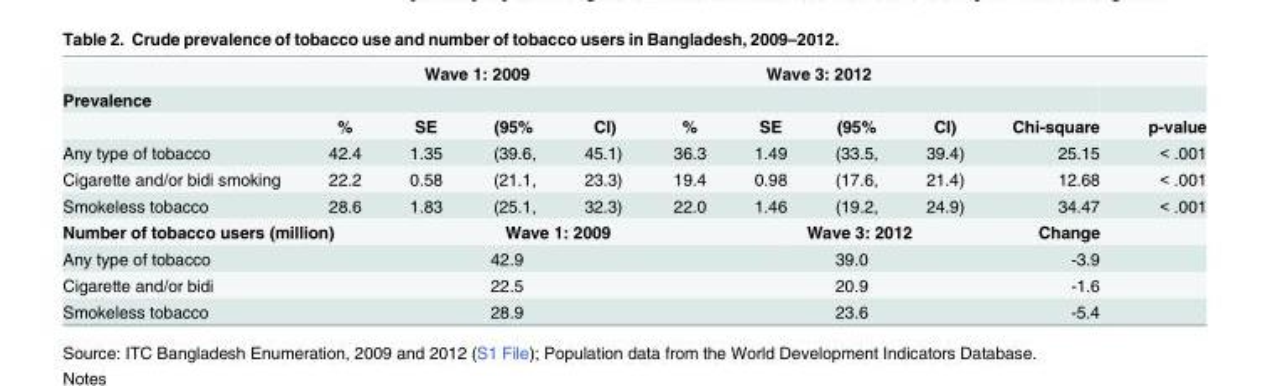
<table><thead><tr><td></td><td colspan="4">Wave 1: 2009</td><td colspan="4">Wave 3: 2012</td><td></td><td rowspan="3">p-value</td></tr><tr><td colspan="10">Prevalence</td></tr><tr><td></td><td>%</td><td>SE</td><td>(95%</td><td>CI)</td><td>%</td><td>SE</td><td>(95%</td><td>CI)</td><td>Chi-square</td></tr></thead><tbody><tr><td>Any type of tobacco</td><td>42.4</td><td>1.35</td><td>(39.6,</td><td>45.1)</td><td>36.3</td><td>1.49</td><td>(33.5,</td><td>39.4)</td><td>25.15</td><td>&lt; .001</td></tr><tr><td>Cigarette and/or bidi smoking</td><td>22.2</td><td>0.58</td><td>(21.1,</td><td>23.3)</td><td>19.4</td><td>0.98</td><td>(17.6,</td><td>21.4)</td><td>12.68</td><td>&lt; .001</td></tr><tr><td>Smokeless tobacco</td><td>28.6</td><td>1.83</td><td>(25.1,</td><td>32.3)</td><td>22.0</td><td>1.46</td><td>(19.2,</td><td>24.9)</td><td>34.47</td><td>&lt; .001</td></tr><tr><td colspan="3">Number of tobacco users (million)</td><td colspan="2">Wave 1: 2009</td><td></td><td colspan="3">Wave 3: 2012</td><td>Change</td><td></td></tr><tr><td>Any type of tobacco</td><td></td><td></td><td>42.9</td><td></td><td></td><td></td><td>39.0</td><td></td><td>-3.9</td><td></td></tr><tr><td>Cigarette and/or bidi</td><td></td><td></td><td>22.5</td><td></td><td></td><td></td><td>20.9</td><td></td><td>-1.6</td><td></td></tr><tr><td>Smokeless tobacco</td><td></td><td></td><td>28.9</td><td></td><td></td><td></td><td>23.6</td><td></td><td>-5.4</td><td></td></tr></tbody></table>